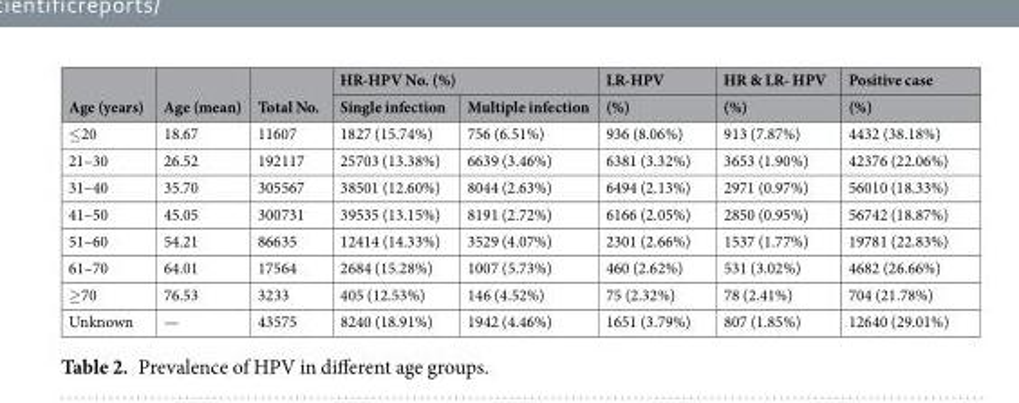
<table><thead><tr><td rowspan="2">Age (years)</td><td rowspan="2">Age (mean)</td><td rowspan="2">Total No.</td><td colspan="2">HR-HPV No. (%)</td><td rowspan="2">LR-HPV (%)</td><td rowspan="2">HR &amp; LR- HPV (%)</td><td rowspan="2">Positive case (%)</td></tr><tr><td>Single infection</td><td>Multiple infection</td></tr></thead><tbody><tr><td>≤20</td><td>18.67</td><td>11607</td><td>1827 (15.74%)</td><td>756 (6.51%)</td><td>936 (8.06%)</td><td>913 (7.87%)</td><td>4432 (38.18%)</td></tr><tr><td>21–30</td><td>26.52</td><td>192117</td><td>25703 (13.38%)</td><td>6639 (3.46%)</td><td>6381 (3.32%)</td><td>3653 (1.90%)</td><td>42376 (22.06%)</td></tr><tr><td>31–40</td><td>35.70</td><td>305567</td><td>38501 (12.60%)</td><td>8044 (2.63%)</td><td>6494 (2.13%)</td><td>2971 (0.97%)</td><td>56010 (18.33%)</td></tr><tr><td>41–50</td><td>45.05</td><td>300731</td><td>39535 (13.15%)</td><td>8191 (2.72%)</td><td>6166 (2.05%)</td><td>2850 (0.95%)</td><td>56742 (18.87%)</td></tr><tr><td>51–60</td><td>54.21</td><td>86635</td><td>12414 (14.33%)</td><td>3529 (4.07%)</td><td>2301 (2.66%)</td><td>1537 (1.77%)</td><td>19781 (22.83%)</td></tr><tr><td>61–70</td><td>64.01</td><td>17564</td><td>2684 (15.28%)</td><td>1007 (5.73%)</td><td>460 (2.62%)</td><td>531 (3.02%)</td><td>4682 (26.66%)</td></tr><tr><td>≥70</td><td>76.53</td><td>3233</td><td>405 (12.53%)</td><td>146 (4.52%)</td><td>75 (2.32%)</td><td>78 (2.41%)</td><td>704 (21.78%)</td></tr><tr><td>Unknown</td><td>—</td><td>43575</td><td>8240 (18.91%)</td><td>1942 (4.46%)</td><td>1651 (3.79%)</td><td>807 (1.85%)</td><td>12640 (29.01%)</td></tr></tbody></table>